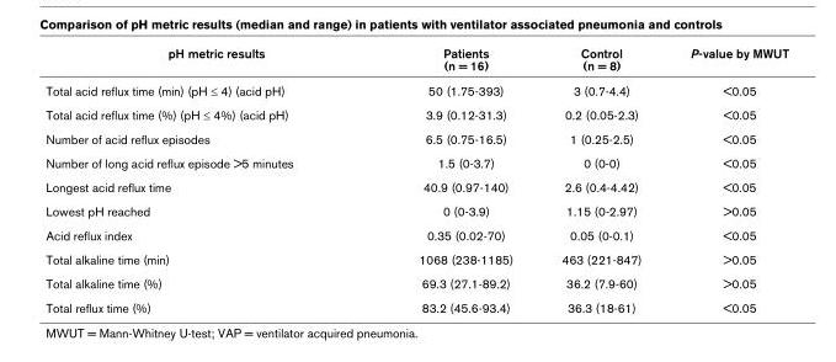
<table><thead><tr><td>pH metric results</td><td>Patients (n = 16)</td><td>Control (n = 8)</td><td>P-value by MWUT</td></tr></thead><tbody><tr><td>Total acid reflux time (min) (pH ≤ 4) (acid pH)</td><td>50 (1.75-393)</td><td>3 (0.7-4.4)</td><td>&lt;0.05</td></tr><tr><td>Total acid reflux time (%) (pH ≤ 4%) (acid pH)</td><td>3.9 (0.12-31.3)</td><td>0.2 (0.05-2.3)</td><td>&lt;0.05</td></tr><tr><td>Number of acid reflux episodes</td><td>6.5 (0.75-16.5)</td><td>1 (0.25-2.5)</td><td>&lt;0.05</td></tr><tr><td>Number of long acid reflux episode &gt;5 minutes</td><td>1.5 (0-3.7)</td><td>0 (0-0)</td><td>&lt;0.05</td></tr><tr><td>Longest acid reflux time</td><td>40.9 (0.97-140)</td><td>2.6 (0.4-4.42)</td><td>&lt;0.05</td></tr><tr><td>Lowest pH reached</td><td>0 (0-3.9)</td><td>1.15 (0-2.97)</td><td>&gt;0.05</td></tr><tr><td>Acid reflux index</td><td>0.35 (0.02-70)</td><td>0.05 (0-0.1)</td><td>&lt;0.05</td></tr><tr><td>Total alkaline time (min)</td><td>1068 (238-1185)</td><td>463 (221-847)</td><td>&gt;0.05</td></tr><tr><td>Total alkaline time (%)</td><td>69.3 (27.1-89.2)</td><td>36.2 (7.9-60)</td><td>&gt;0.05</td></tr><tr><td>Total reflux time (%)</td><td>83.2 (45.6-93.4)</td><td>36.3 (18-61)</td><td>&lt;0.05</td></tr></tbody></table>